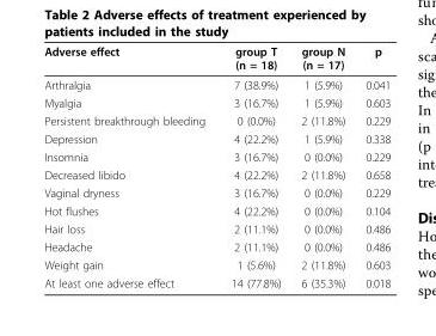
<table><thead><tr><td>Adverse effect</td><td>group T (n = 18)</td><td>group N (n = 17)</td><td>p</td></tr></thead><tbody><tr><td>Arthralgia</td><td>7 (38.9%)</td><td>1 (5.9%)</td><td>0.041</td></tr><tr><td>Myalgia</td><td>3 (16.7%)</td><td>1 (5.9%)</td><td>0.603</td></tr><tr><td>Persistent breakthrough bleeding</td><td>0 (0.0%)</td><td>2 (11.8%)</td><td>0.229</td></tr><tr><td>Depression</td><td>4 (22.2%)</td><td>1 (5.9%)</td><td>0.338</td></tr><tr><td>Insomnia</td><td>3 (16.7%)</td><td>0 (0.0%)</td><td>0.229</td></tr><tr><td>Decreased libido</td><td>4 (22.2%)</td><td>2 (11.8%)</td><td>0.658</td></tr><tr><td>Vaginal dryness</td><td>3 (16.7%)</td><td>0 (0.0%)</td><td>0.229</td></tr><tr><td>Hot flushes</td><td>4 (22.2%)</td><td>0 (0.0%)</td><td>0.104</td></tr><tr><td>Hair loss</td><td>2 (11.1%)</td><td>0 (0.0%)</td><td>0.486</td></tr><tr><td>Headache</td><td>2 (11.1%)</td><td>0 (0.0%)</td><td>0.486</td></tr><tr><td>Weight gain</td><td>1 (5.6%)</td><td>2 (11.8%)</td><td>0.603</td></tr><tr><td>At least one adverse effect</td><td>14 (77.8%)</td><td>6 (35.3%)</td><td>0.018</td></tr></tbody></table>